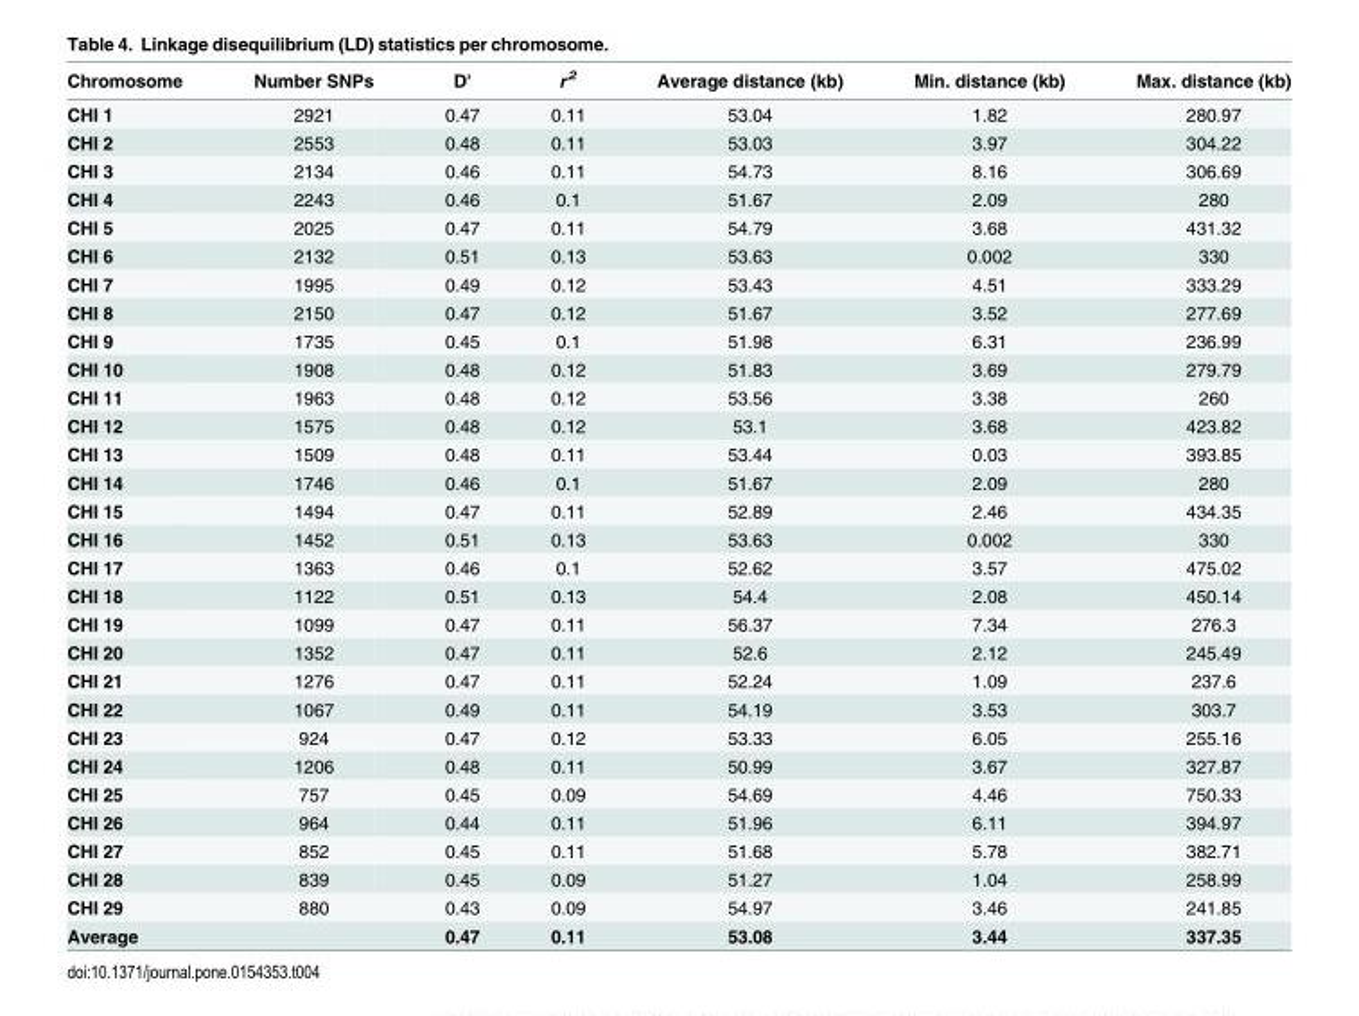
<table><thead><tr><td>Chromosome</td><td>Number SNPs</td><td>D&#x27;</td><td>r<sup>2</sup></td><td>Average distance (kb)</td><td>Min. distance (kb)</td><td>Max. distance (kb)</td></tr></thead><tbody><tr><td>CHI 1</td><td>2921</td><td>0.47</td><td>0.11</td><td>53.04</td><td>1.82</td><td>280.97</td></tr><tr><td>CHI 2</td><td>2553</td><td>0.48</td><td>0.11</td><td>53.03</td><td>3.97</td><td>304.22</td></tr><tr><td>CHI 3</td><td>2134</td><td>0.46</td><td>0.11</td><td>54.73</td><td>8.16</td><td>306.69</td></tr><tr><td>CHI 4</td><td>2243</td><td>0.46</td><td>0.1</td><td>51.67</td><td>2.09</td><td>280</td></tr><tr><td>CHI 5</td><td>2025</td><td>0.47</td><td>0.11</td><td>54.79</td><td>3.68</td><td>431.32</td></tr><tr><td>CHI 6</td><td>2132</td><td>0.51</td><td>0.13</td><td>53.63</td><td>0.002</td><td>330</td></tr><tr><td>CHI 7</td><td>1995</td><td>0.49</td><td>0.12</td><td>53.43</td><td>4.51</td><td>333.29</td></tr><tr><td>CHI 8</td><td>2150</td><td>0.47</td><td>0.12</td><td>51.67</td><td>3.52</td><td>277.69</td></tr><tr><td>CHI 9</td><td>1735</td><td>0.45</td><td>0.1</td><td>51.98</td><td>6.31</td><td>236.99</td></tr><tr><td>CHI 10</td><td>1908</td><td>0.48</td><td>0.12</td><td>51.83</td><td>3.69</td><td>279.79</td></tr><tr><td>CHI 11</td><td>1963</td><td>0.48</td><td>0.12</td><td>53.56</td><td>3.38</td><td>260</td></tr><tr><td>CHI 12</td><td>1575</td><td>0.48</td><td>0.12</td><td>53.1</td><td>3.68</td><td>423.82</td></tr><tr><td>CHI 13</td><td>1509</td><td>0.48</td><td>0.11</td><td>53.44</td><td>0.03</td><td>393.85</td></tr><tr><td>CHI 14</td><td>1746</td><td>0.46</td><td>0.1</td><td>51.67</td><td>2.09</td><td>280</td></tr><tr><td>CHI 15</td><td>1494</td><td>0.47</td><td>0.11</td><td>52.89</td><td>2.46</td><td>434.35</td></tr><tr><td>CHI 16</td><td>1452</td><td>0.51</td><td>0.13</td><td>53.63</td><td>0.002</td><td>330</td></tr><tr><td>CHI 17</td><td>1363</td><td>0.46</td><td>0.1</td><td>52.62</td><td>3.57</td><td>475.02</td></tr><tr><td>CHI 18</td><td>1122</td><td>0.51</td><td>0.13</td><td>54.4</td><td>2.08</td><td>450.14</td></tr><tr><td>CHI 19</td><td>1099</td><td>0.47</td><td>0.11</td><td>56.37</td><td>7.34</td><td>276.3</td></tr><tr><td>CHI 20</td><td>1352</td><td>0.47</td><td>0.11</td><td>52.6</td><td>2.12</td><td>245.49</td></tr><tr><td>CHI 21</td><td>1276</td><td>0.47</td><td>0.11</td><td>52.24</td><td>1.09</td><td>237.6</td></tr><tr><td>CHI 22</td><td>1067</td><td>0.49</td><td>0.11</td><td>54.19</td><td>3.53</td><td>303.7</td></tr><tr><td>CHI 23</td><td>924</td><td>0.47</td><td>0.12</td><td>53.33</td><td>6.05</td><td>255.16</td></tr><tr><td>CHI 24</td><td>1206</td><td>0.48</td><td>0.11</td><td>50.99</td><td>3.67</td><td>327.87</td></tr><tr><td>CHI 25</td><td>757</td><td>0.45</td><td>0.09</td><td>54.69</td><td>4.46</td><td>750.33</td></tr><tr><td>CHI 26</td><td>964</td><td>0.44</td><td>0.11</td><td>51.96</td><td>6.11</td><td>394.97</td></tr><tr><td>CHI 27</td><td>852</td><td>0.45</td><td>0.11</td><td>51.68</td><td>5.78</td><td>382.71</td></tr><tr><td>CHI 28</td><td>839</td><td>0.45</td><td>0.09</td><td>51.27</td><td>1.04</td><td>258.99</td></tr><tr><td>CHI 29</td><td>880</td><td>0.43</td><td>0.09</td><td>54.97</td><td>3.46</td><td>241.85</td></tr><tr><td colspan="2">Average</td><td>0.47</td><td>0.11</td><td>53.08</td><td>3.44</td><td>337.35</td></tr></tbody></table>